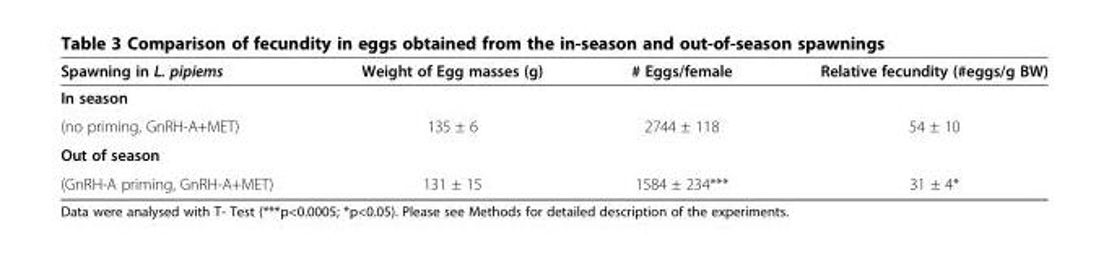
<table><thead><tr><td>Spawning in L. pipiems</td><td>Weight of Egg masses (g)</td><td># Eggs/female</td><td>Relative fecundity (#eggs/g BW)</td></tr></thead><tbody><tr><td colspan="4">In season</td></tr><tr><td>(no priming, GnRH-A+MET)</td><td>135 ± 6</td><td>2744 ± 118</td><td>54 ± 10</td></tr><tr><td colspan="4">Out of season</td></tr><tr><td>(GnRH-A priming, GnRH-A+MET)</td><td>131 ± 15</td><td>1584 ± 234***</td><td>31 ± 4*</td></tr></tbody></table>